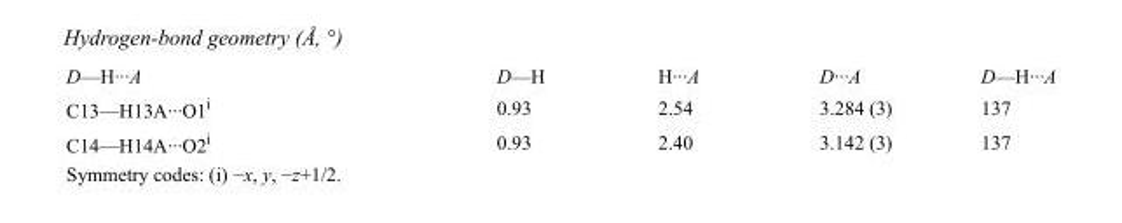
<table><tbody><tr><td>D—H···A</td><td>D—H</td><td>H···A</td><td>D···A</td><td>D—H···A</td></tr><tr><td>C13—H13A···O1<sup>i</sup></td><td>0.93</td><td>2.54</td><td>3.284 (3)</td><td>137</td></tr><tr><td>C14—H14A···O2<sup>i</sup></td><td>0.93</td><td>2.40</td><td>3.142 (3)</td><td>137</td></tr></tbody></table>